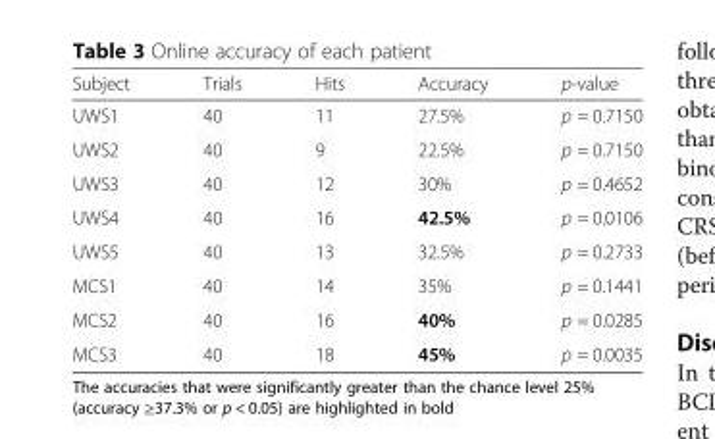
<table><thead><tr><td>Subject</td><td>Trials</td><td>Hits</td><td>Accuracy</td><td>p-value</td></tr></thead><tbody><tr><td>UWS1</td><td>40</td><td>11</td><td>27.5%</td><td>p = 0.7150</td></tr><tr><td>UWS2</td><td>40</td><td>9</td><td>22.5%</td><td>p = 0.7150</td></tr><tr><td>UWS3</td><td>40</td><td>12</td><td>30%</td><td>p = 0.4652</td></tr><tr><td>UWS4</td><td>40</td><td>16</td><td>42.5%</td><td>p = 0.0106</td></tr><tr><td>UWS5</td><td>40</td><td>13</td><td>32.5%</td><td>p = 0.2733</td></tr><tr><td>MCS1</td><td>40</td><td>14</td><td>35%</td><td>p = 0.1441</td></tr><tr><td>MCS2</td><td>40</td><td>16</td><td>40%</td><td>p = 0.0285</td></tr><tr><td>MCS3</td><td>40</td><td>18</td><td>45%</td><td>p = 0.0035</td></tr></tbody></table>